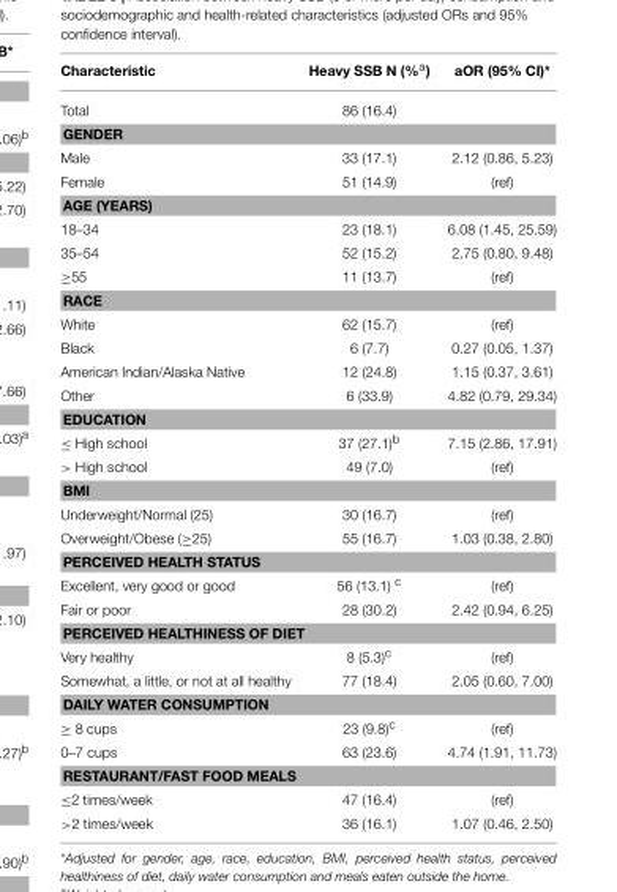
<table><thead><tr><td>Characteristic</td><td>Heavy SSB N (%<sup>a</sup>)</td><td>aOR (95% CI)*</td></tr></thead><tbody><tr><td>Total</td><td>86 (16.4)</td><td></td></tr><tr><td colspan="3">GENDER</td></tr><tr><td>Male</td><td>33 (17.1)</td><td>2.12 (0.86, 5.23)</td></tr><tr><td>Female</td><td>51 (14.9)</td><td>(ref)</td></tr><tr><td colspan="3">AGE (YEARS)</td></tr><tr><td>18–34</td><td>23 (18.1)</td><td>6.08 (1.45, 25.59)</td></tr><tr><td>35–54</td><td>52 (15.2)</td><td>2.75 (0.80, 9.48)</td></tr><tr><td>≥55</td><td>11 (13.7)</td><td>(ref)</td></tr><tr><td colspan="3">RACE</td></tr><tr><td>White</td><td>62 (15.7)</td><td>(ref)</td></tr><tr><td>Black</td><td>6 (7.7)</td><td>0.27 (0.05, 1.37)</td></tr><tr><td>American Indian/Alaska Native</td><td>12 (24.8)</td><td>1.15 (0.37, 3.61)</td></tr><tr><td>Other</td><td>6 (33.9)</td><td>4.82 (0.79, 29.34)</td></tr><tr><td colspan="3">EDUCATION</td></tr><tr><td>≤ High school</td><td>37 (27.1)<sup>b</sup></td><td>7.15 (2.86, 17.91)</td></tr><tr><td>&gt; High school</td><td>49 (7.0)</td><td>(ref)</td></tr><tr><td colspan="3">BMI</td></tr><tr><td>Underweight/Normal (25)</td><td>30 (16.7)</td><td>(ref)</td></tr><tr><td>Overweight/Obese (≥25)</td><td>55 (16.7)</td><td>1.03 (0.38, 2.80)</td></tr><tr><td colspan="3">PERCEIVED HEALTH STATUS</td></tr><tr><td>Excellent, very good or good</td><td>56 (13.1) <sup>c</sup></td><td>(ref)</td></tr><tr><td>Fair or poor</td><td>28 (30.2)</td><td>2.42 (0.94, 6.25)</td></tr><tr><td colspan="3">PERCEIVED HEALTHINESS OF DIET</td></tr><tr><td>Very healthy</td><td>8 (5.3)<sup>c</sup></td><td>(ref)</td></tr><tr><td>Somewhat, a little, or not at all healthy</td><td>77 (18.4)</td><td>2.05 (0.60, 7.00)</td></tr><tr><td colspan="3">DAILY WATER CONSUMPTION</td></tr><tr><td>≥ 8 cups</td><td>23 (9.8)<sup>c</sup></td><td>(ref)</td></tr><tr><td>0–7 cups</td><td>63 (23.6)</td><td>4.74 (1.91, 11.73)</td></tr><tr><td colspan="3">RESTAURANT/FAST FOOD MEALS</td></tr><tr><td>≤2 times/week</td><td>47 (16.4)</td><td>(ref)</td></tr><tr><td>&gt;2 times/week</td><td>36 (16.1)</td><td>1.07 (0.46, 2.50)</td></tr></tbody></table>